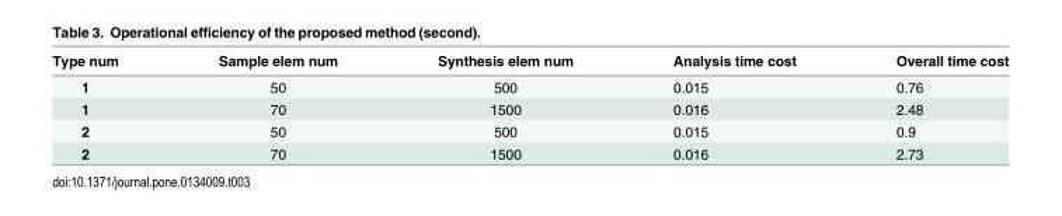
<table><thead><tr><td>Type num</td><td>Sample elem num</td><td>Synthesis elem num</td><td>Analysis time cost</td><td>Overall time cost</td></tr></thead><tbody><tr><td>1</td><td>50</td><td>500</td><td>0.015</td><td>0.76</td></tr><tr><td>1</td><td>70</td><td>1500</td><td>0.016</td><td>2.48</td></tr><tr><td>2</td><td>50</td><td>500</td><td>0.015</td><td>0.9</td></tr><tr><td>2</td><td>70</td><td>1500</td><td>0.016</td><td>2.73</td></tr></tbody></table>